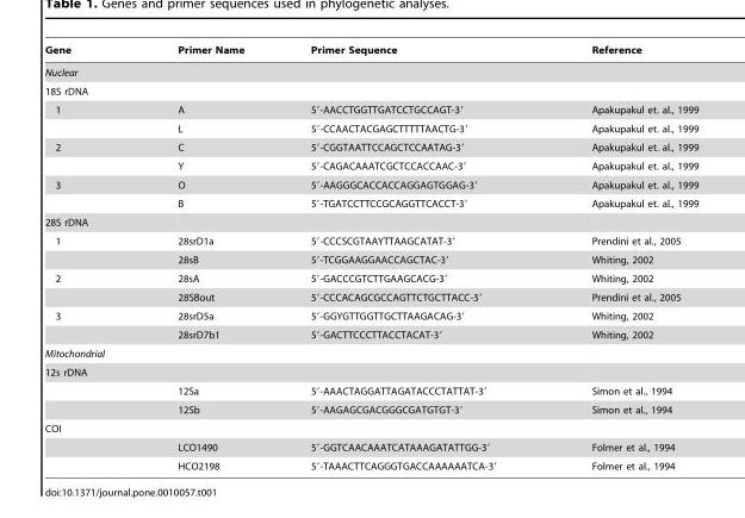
<table><thead><tr><td>Gene</td><td>Primer Name</td><td>Primer Sequence</td><td>Reference</td></tr></thead><tbody><tr><td colspan="4">Nuclear</td></tr><tr><td colspan="4">18S rDNA</td></tr><tr><td rowspan="2">1</td><td>A</td><td>5′-AACCTGGTTGATCCTGCCAGT-3′</td><td>Apakupakul et. al., 1999</td></tr><tr><td>L</td><td>5′-CCAACTACGAGCTTTTTAACTG-3′</td><td>Apakupakul et. al., 1999</td></tr><tr><td rowspan="2">2</td><td>C</td><td>5′-CGGTAATTCCAGCTCCAATAG-3′</td><td>Apakupakul et. al., 1999</td></tr><tr><td>Y</td><td>5′-CAGACAAATCGCTCCACCAAC-3′</td><td>Apakupakul et. al., 1999</td></tr><tr><td rowspan="2">3</td><td>O</td><td>5′-AAGGGCACCACCAGGAGTGGAG-3′</td><td>Apakupakul et. al., 1999</td></tr><tr><td>B</td><td>5′-TGATCCTTCCGCAGGTTCACCT-3′</td><td>Apakupakul et. al., 1999</td></tr><tr><td colspan="4">28S rDNA</td></tr><tr><td rowspan="2">1</td><td>28srD1a</td><td>5′-CCCSCGTAAYTTAAGCATAT-3′</td><td>Prendini et al., 2005</td></tr><tr><td>28sB</td><td>5′-TCGGAAGGAACCAGCTAC-3′</td><td>Whiting, 2002</td></tr><tr><td rowspan="2">2</td><td>28sA</td><td>5′-GACCCGTCTTGAAGCACG-3′</td><td>Whiting, 2002</td></tr><tr><td>28SBout</td><td>5′-CCCACAGCGCCAGTTCTGCTTACC-3′</td><td>Prendini et al., 2005</td></tr><tr><td rowspan="2">3</td><td>28srD5a</td><td>5′-GGYGTTGGTTGCTTAAGACAG-3′</td><td>Whiting, 2002</td></tr><tr><td>28srD7b1</td><td>5′-GACTTCCCTTACCTACAT-3′</td><td>Whiting, 2002</td></tr><tr><td colspan="4">Mitochondrial</td></tr><tr><td colspan="4">12s rDNA</td></tr><tr><td></td><td>12Sa</td><td>5′-AAACTAGGATTAGATACCCTATTAT-3′</td><td>Simon et al., 1994</td></tr><tr><td></td><td>12Sb</td><td>5′-AAGAGCGACGGGCGATGTGT-3′</td><td>Simon et al., 1994</td></tr><tr><td colspan="4">COI</td></tr><tr><td></td><td>LCO1490</td><td>5′-GGTCAACAAATCATAAAGATATTGG-3′</td><td>Folmer et al., 1994</td></tr><tr><td></td><td>HCO2198</td><td>5′-TAAACTTCAGGGTGACCAAAAAATCA-3′</td><td>Folmer et al., 1994</td></tr></tbody></table>